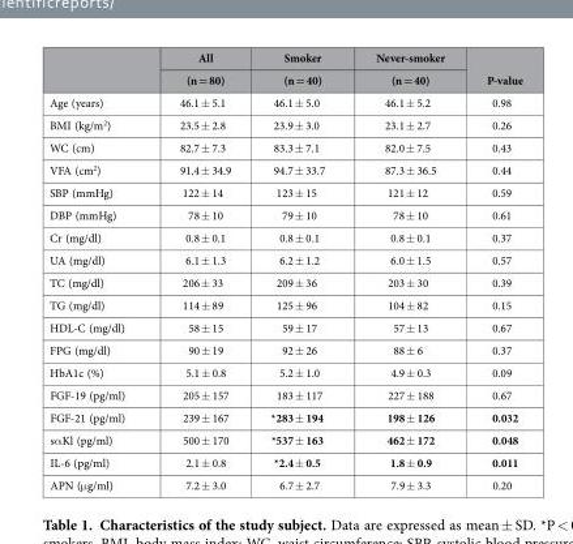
<table><thead><tr><td rowspan="2"></td><td rowspan="2">All (n = 80)</td><td rowspan="2">Smoker (n = 40)</td><td rowspan="2">Never-smoker (n = 40)</td><td rowspan="2">P-value</td></tr><tr></tr></thead><tbody><tr><td>Age (years)</td><td>46.1 ± 5.1</td><td>46.1 ± 5.0</td><td>46.1 ± 5.2</td><td>0.98</td></tr><tr><td>BMI (kg/m<sup>2</sup>)</td><td>23.5 ± 2.8</td><td>23.9 ± 3.0</td><td>23.1 ± 2.7</td><td>0.26</td></tr><tr><td>WC (cm)</td><td>82.7 ± 7.3</td><td>83.3 ± 7.1</td><td>82.0 ± 7.5</td><td>0.43</td></tr><tr><td>VFA (cm<sup>2</sup>)</td><td>91.4 ± 34.9</td><td>94.7 ± 33.7</td><td>87.3 ± 36.5</td><td>0.44</td></tr><tr><td>SBP (mmHg)</td><td>122 ± 14</td><td>123 ± 15</td><td>121 ± 12</td><td>0.59</td></tr><tr><td>DBP (mmHg)</td><td>78 ± 10</td><td>79 ± 10</td><td>78 ± 10</td><td>0.61</td></tr><tr><td>Cr (mg/dl)</td><td>0.8 ± 0.1</td><td>0.8 ± 0.1</td><td>0.8 ± 0.1</td><td>0.37</td></tr><tr><td>UA (mg/dl)</td><td>6.1 ± 1.3</td><td>6.2 ± 1.2</td><td>6.0 ± 1.5</td><td>0.57</td></tr><tr><td>TC (mg/dl)</td><td>206 ± 33</td><td>209 ± 36</td><td>203 ± 30</td><td>0.39</td></tr><tr><td>TG (mg/dl)</td><td>114 ± 89</td><td>125 ± 96</td><td>104 ± 82</td><td>0.15</td></tr><tr><td>HDL-C (mg/dl)</td><td>58 ± 15</td><td>59 ± 17</td><td>57 ± 13</td><td>0.67</td></tr><tr><td>FPG (mg/dl)</td><td>90 ± 19</td><td>92 ± 26</td><td>88 ± 6</td><td>0.37</td></tr><tr><td>HbA1c (%)</td><td>5.1 ± 0.8</td><td>5.2 ± 1.0</td><td>4.9 ± 0.3</td><td>0.09</td></tr><tr><td>FGF-19 (pg/ml)</td><td>205 ± 157</td><td>183 ± 117</td><td>227 ± 188</td><td>0.67</td></tr><tr><td>FGF-21 (pg/ml)</td><td>239 ± 167</td><td>*283 ± 194</td><td>198 ± 126</td><td>0.032</td></tr><tr><td>sα Kl (pg/ml)</td><td>500 ± 170</td><td>*537 ± 163</td><td>462 ± 172</td><td>0.048</td></tr><tr><td>IL-6 (pg/ml)</td><td>2.1 ± 0.8</td><td>*2.4 ± 0.5</td><td>1.8 ± 0.9</td><td>0.011</td></tr><tr><td>APN (μ g/ml)</td><td>7.2 ± 3.0</td><td>6.7 ± 2.7</td><td>7.9 ± 3.3</td><td>0.20</td></tr></tbody></table>